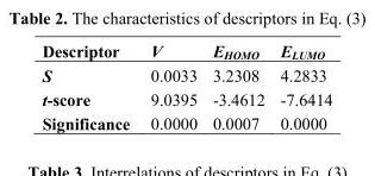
<table><thead><tr><td>Descriptor</td><td>V</td><td>E<sub>HOMO</sub></td><td>E<sub>LUMO</sub></td></tr></thead><tbody><tr><td>S</td><td>0.0033</td><td>3.2308</td><td>4.2833</td></tr><tr><td>t-score</td><td>9.0395</td><td>-3.4612</td><td>-7.6414</td></tr><tr><td>Significance</td><td>0.0000</td><td>0.0007</td><td>0.0000</td></tr></tbody></table>